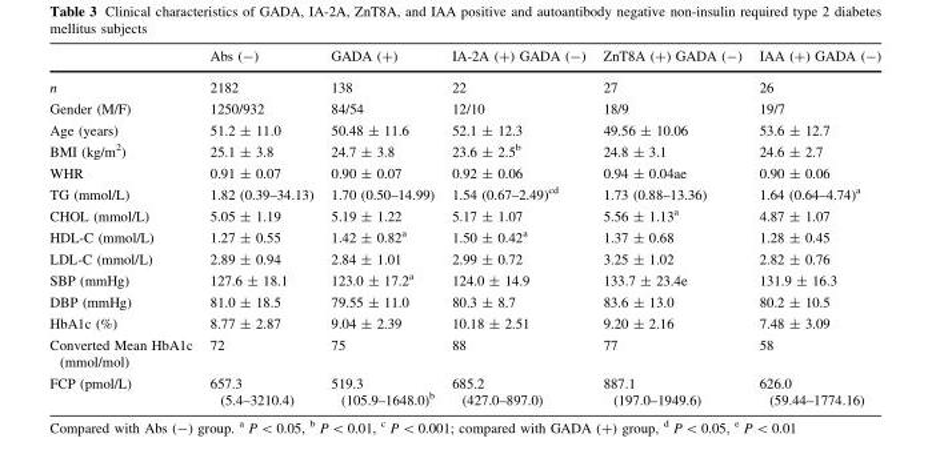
<table><thead><tr><td></td><td>Abs (-)</td><td>GADA (+)</td><td>IA-2A (+) GADA (-)</td><td>ZnT8A (+) GADA (-)</td><td>IAA (+) GADA (-)</td></tr></thead><tbody><tr><td>n</td><td>2182</td><td>138</td><td>22</td><td>27</td><td>26</td></tr><tr><td>Gender (M/F)</td><td>1250/932</td><td>84/54</td><td>12/10</td><td>18/9</td><td>19/7</td></tr><tr><td>Age (years)</td><td>51.2 ± 11.0</td><td>50.48 ± 11.6</td><td>52.1 ± 12.3</td><td>49.56 ± 10.06</td><td>53.6 ± 12.7</td></tr><tr><td>BMI (kg/m<sup>2</sup>)</td><td>25.1 ± 3.8</td><td>24.7 ± 3.8</td><td>23.6 ± 2.5<sup>b</sup></td><td>24.8 ± 3.1</td><td>24.6 ± 2.7</td></tr><tr><td>WHR</td><td>0.91 ± 0.07</td><td>0.90 ± 0.07</td><td>0.92 ± 0.06</td><td>0.94 ± 0.04ae</td><td>0.90 ± 0.06</td></tr><tr><td>TG (mmol/L)</td><td>1.82 (0.39–34.13)</td><td>1.70 (0.50–14.99)</td><td>1.54 (0.67–2.49)<sup>cd</sup></td><td>1.73 (0.88–13.36)</td><td>1.64 (0.64–4.74)<sup>a</sup></td></tr><tr><td>CHOL (mmol/L)</td><td>5.05 ± 1.19</td><td>5.19 ± 1.22</td><td>5.17 ± 1.07</td><td>5.56 ± 1.13<sup>a</sup></td><td>4.87 ± 1.07</td></tr><tr><td>HDL-C (mmol/L)</td><td>1.27 ± 0.55</td><td>1.42 ± 0.82<sup>a</sup></td><td>1.50 ± 0.42<sup>a</sup></td><td>1.37 ± 0.68</td><td>1.28 ± 0.45</td></tr><tr><td>LDL-C (mmol/L)</td><td>2.89 ± 0.94</td><td>2.84 ± 1.01</td><td>2.99 ± 0.72</td><td>3.25 ± 1.02</td><td>2.82 ± 0.76</td></tr><tr><td>SBP (mmHg)</td><td>127.6 ± 18.1</td><td>123.0 ± 17.2<sup>a</sup></td><td>124.0 ± 14.9</td><td>133.7 ± 23.4e</td><td>131.9 ± 16.3</td></tr><tr><td>DBP (mmHg)</td><td>81.0 ± 18.5</td><td>79.55 ± 11.0</td><td>80.3 ± 8.7</td><td>83.6 ± 13.0</td><td>80.2 ± 10.5</td></tr><tr><td>HbA1c (%)</td><td>8.77 ± 2.87</td><td>9.04 ± 2.39</td><td>10.18 ± 2.51</td><td>9.20 ± 2.16</td><td>7.48 ± 3.09</td></tr><tr><td>Converted Mean HbA1c (mmol/mol)</td><td>72</td><td>75</td><td>88</td><td>77</td><td>58</td></tr><tr><td>FCP (pmol/L)</td><td>657.3 (5.4–3210.4)</td><td>519.3 (105.9–1648.0)<sup>b</sup></td><td>685.2 (427.0–897.0)</td><td>887.1 (197.0–1949.6)</td><td>626.0 (59.44–1774.16)</td></tr></tbody></table>